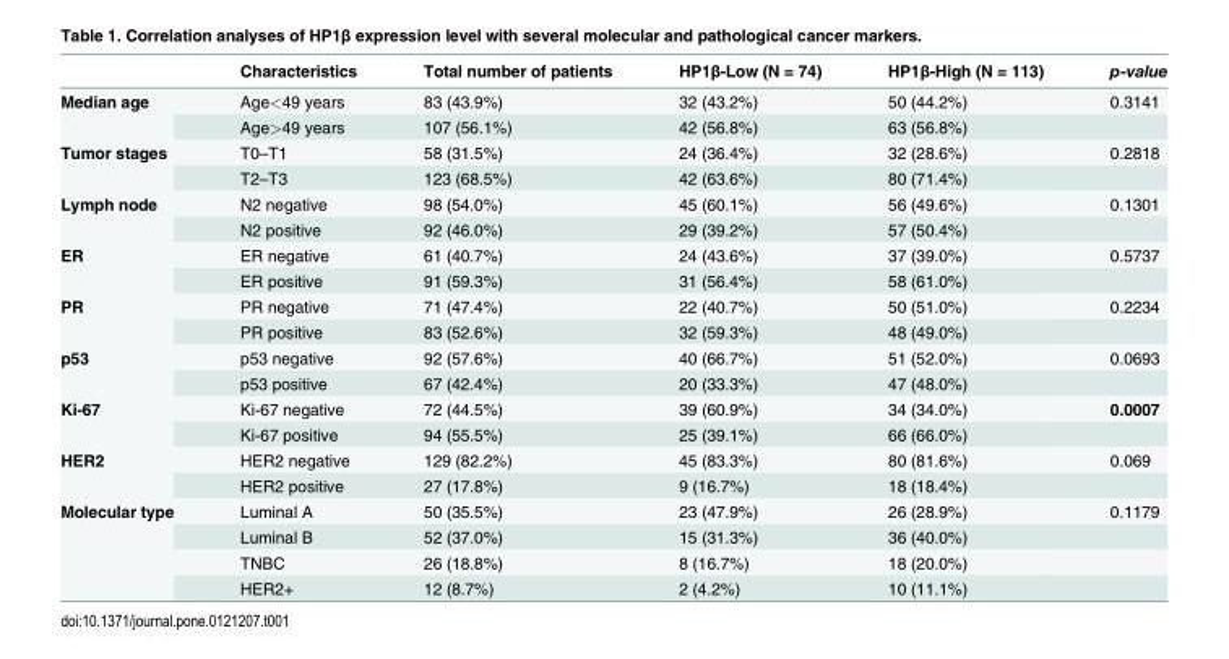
<table><thead><tr><td></td><td>Characteristics</td><td>Total number of patients</td><td>HP1β-Low (N = 74)</td><td>HP1β-High (N = 113)</td><td>p-value</td></tr></thead><tbody><tr><td rowspan="2">Median age</td><td>Age&lt;49 years</td><td>83 (43.9%)</td><td>32 (43.2%)</td><td>50 (44.2%)</td><td>0.3141</td></tr><tr><td>Age&gt;49 years</td><td>107 (56.1%)</td><td>42 (56.8%)</td><td>63 (56.8%)</td><td></td></tr><tr><td rowspan="2">Tumor stages</td><td>T0–T1</td><td>58 (31.5%)</td><td>24 (36.4%)</td><td>32 (28.6%)</td><td>0.2818</td></tr><tr><td>T2–T3</td><td>123 (68.5%)</td><td>42 (63.6%)</td><td>80 (71.4%)</td><td></td></tr><tr><td rowspan="2">Lymph node</td><td>N2 negative</td><td>98 (54.0%)</td><td>45 (60.1%)</td><td>56 (49.6%)</td><td>0.1301</td></tr><tr><td>N2 positive</td><td>92 (46.0%)</td><td>29 (39.2%)</td><td>57 (50.4%)</td><td></td></tr><tr><td rowspan="2">ER</td><td>ER negative</td><td>61 (40.7%)</td><td>24 (43.6%)</td><td>37 (39.0%)</td><td>0.5737</td></tr><tr><td>ER positive</td><td>91 (59.3%)</td><td>31 (56.4%)</td><td>58 (61.0%)</td><td></td></tr><tr><td rowspan="2">PR</td><td>PR negative</td><td>71 (47.4%)</td><td>22 (40.7%)</td><td>50 (51.0%)</td><td>0.2234</td></tr><tr><td>PR positive</td><td>83 (52.6%)</td><td>32 (59.3%)</td><td>48 (49.0%)</td><td></td></tr><tr><td rowspan="2">p53</td><td>p53 negative</td><td>92 (57.6%)</td><td>40 (66.7%)</td><td>51 (52.0%)</td><td>0.0693</td></tr><tr><td>p53 positive</td><td>67 (42.4%)</td><td>20 (33.3%)</td><td>47 (48.0%)</td><td></td></tr><tr><td rowspan="2">Ki-67</td><td>Ki-67 negative</td><td>72 (44.5%)</td><td>39 (60.9%)</td><td>34 (34.0%)</td><td>0.0007</td></tr><tr><td>Ki-67 positive</td><td>94 (55.5%)</td><td>25 (39.1%)</td><td>66 (66.0%)</td><td></td></tr><tr><td rowspan="2">HER2</td><td>HER2 negative</td><td>129 (82.2%)</td><td>45 (83.3%)</td><td>80 (81.6%)</td><td>0.069</td></tr><tr><td>HER2 positive</td><td>27 (17.8%)</td><td>9 (16.7%)</td><td>18 (18.4%)</td><td></td></tr><tr><td rowspan="4">Molecular type</td><td>Luminal A</td><td>50 (35.5%)</td><td>23 (47.9%)</td><td>26 (28.9%)</td><td>0.1179</td></tr><tr><td>Luminal B</td><td>52 (37.0%)</td><td>15 (31.3%)</td><td>36 (40.0%)</td><td></td></tr><tr><td>TNBC</td><td>26 (18.8%)</td><td>8 (16.7%)</td><td>18 (20.0%)</td><td></td></tr><tr><td>HER2+</td><td>12 (8.7%)</td><td>2 (4.2%)</td><td>10 (11.1%)</td><td></td></tr></tbody></table>